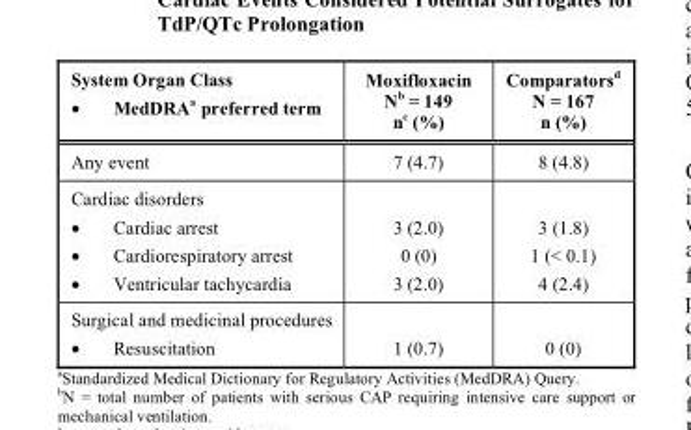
<table><thead><tr><td>System Organ Class • MedDRA<sup>a</sup> preferred term</td><td>Moxifloxacin N<sup>b</sup> = 149 n<sup>c</sup> (%)</td><td>Comparators<sup>d</sup> N = 167 n (%)</td></tr></thead><tbody><tr><td>Any event</td><td>7 (4.7)</td><td>8 (4.8)</td></tr><tr><td colspan="3">Cardiac disorders</td></tr><tr><td>• Cardiac arrest</td><td>3 (2.0)</td><td>3 (1.8)</td></tr><tr><td>• Cardiorespiratory arrest</td><td>0 (0)</td><td>1 (&lt; 0.1)</td></tr><tr><td>• Ventricular tachycardia</td><td>3 (2.0)</td><td>4 (2.4)</td></tr><tr><td colspan="3">Surgical and medicinal procedures</td></tr><tr><td>• Resuscitation</td><td>1 (0.7)</td><td>0 (0)</td></tr></tbody></table>